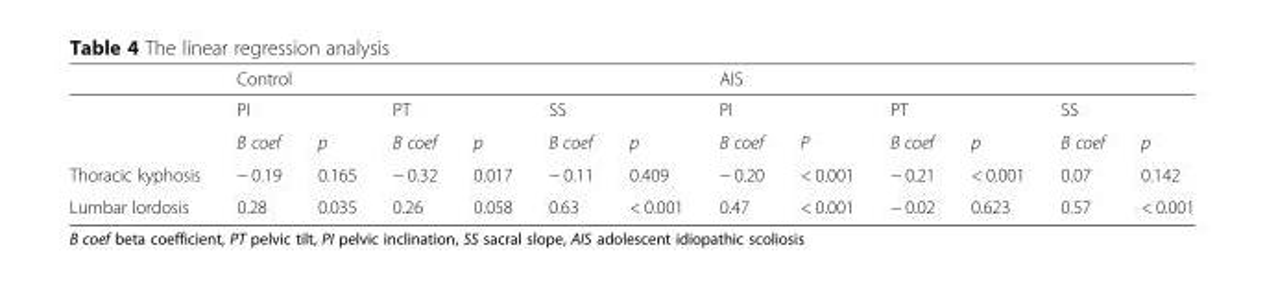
<table><thead><tr><td rowspan="3"></td><td colspan="6">Control</td><td colspan="6">AIS</td></tr><tr><td colspan="2">PI</td><td colspan="2">PT</td><td colspan="2">SS</td><td colspan="2">PI</td><td colspan="2">PT</td><td colspan="2">SS</td></tr><tr><td>B coef</td><td>p</td><td>B coef</td><td>p</td><td>B coef</td><td>p</td><td>B coef</td><td>P</td><td>B coef</td><td>p</td><td>B coef</td><td>p</td></tr></thead><tbody><tr><td>Thoracic kyphosis</td><td>− 0.19</td><td>0.165</td><td>− 0.32</td><td>0.017</td><td>− 0.11</td><td>0.409</td><td>− 0.20</td><td>&lt; 0.001</td><td>− 0.21</td><td>&lt; 0.001</td><td>0.07</td><td>0.142</td></tr><tr><td>Lumbar lordosis</td><td>0.28</td><td>0.035</td><td>0.26</td><td>0.058</td><td>0.63</td><td>&lt; 0.001</td><td>0.47</td><td>&lt; 0.001</td><td>− 0.02</td><td>0.623</td><td>0.57</td><td>&lt; 0.001</td></tr></tbody></table>